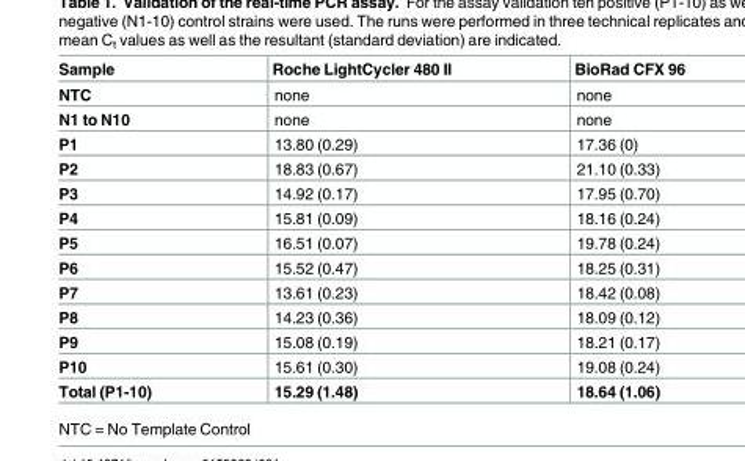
<table><thead><tr><td>Sample</td><td>Roche LightCycler 480 II</td><td>BioRad CFX 96</td></tr></thead><tbody><tr><td>NTC</td><td>none</td><td>none</td></tr><tr><td>N1 to N10</td><td>none</td><td>none</td></tr><tr><td>P1</td><td>13.80 (0.29)</td><td>17.36 (0)</td></tr><tr><td>P2</td><td>18.83 (0.67)</td><td>21.10 (0.33)</td></tr><tr><td>P3</td><td>14.92 (0.17)</td><td>17.95 (0.70)</td></tr><tr><td>P4</td><td>15.81 (0.09)</td><td>18.16 (0.24)</td></tr><tr><td>P5</td><td>16.51 (0.07)</td><td>19.78 (0.24)</td></tr><tr><td>P6</td><td>15.52 (0.47)</td><td>18.25 (0.31)</td></tr><tr><td>P7</td><td>13.61 (0.23)</td><td>18.42 (0.08)</td></tr><tr><td>P8</td><td>14.23 (0.36)</td><td>18.09 (0.12)</td></tr><tr><td>P9</td><td>15.08 (0.19)</td><td>18.21 (0.17)</td></tr><tr><td>P10</td><td>15.61 (0.30)</td><td>19.08 (0.24)</td></tr><tr><td>Total (P1-10)</td><td>15.29 (1.48)</td><td>18.64 (1.06)</td></tr></tbody></table>